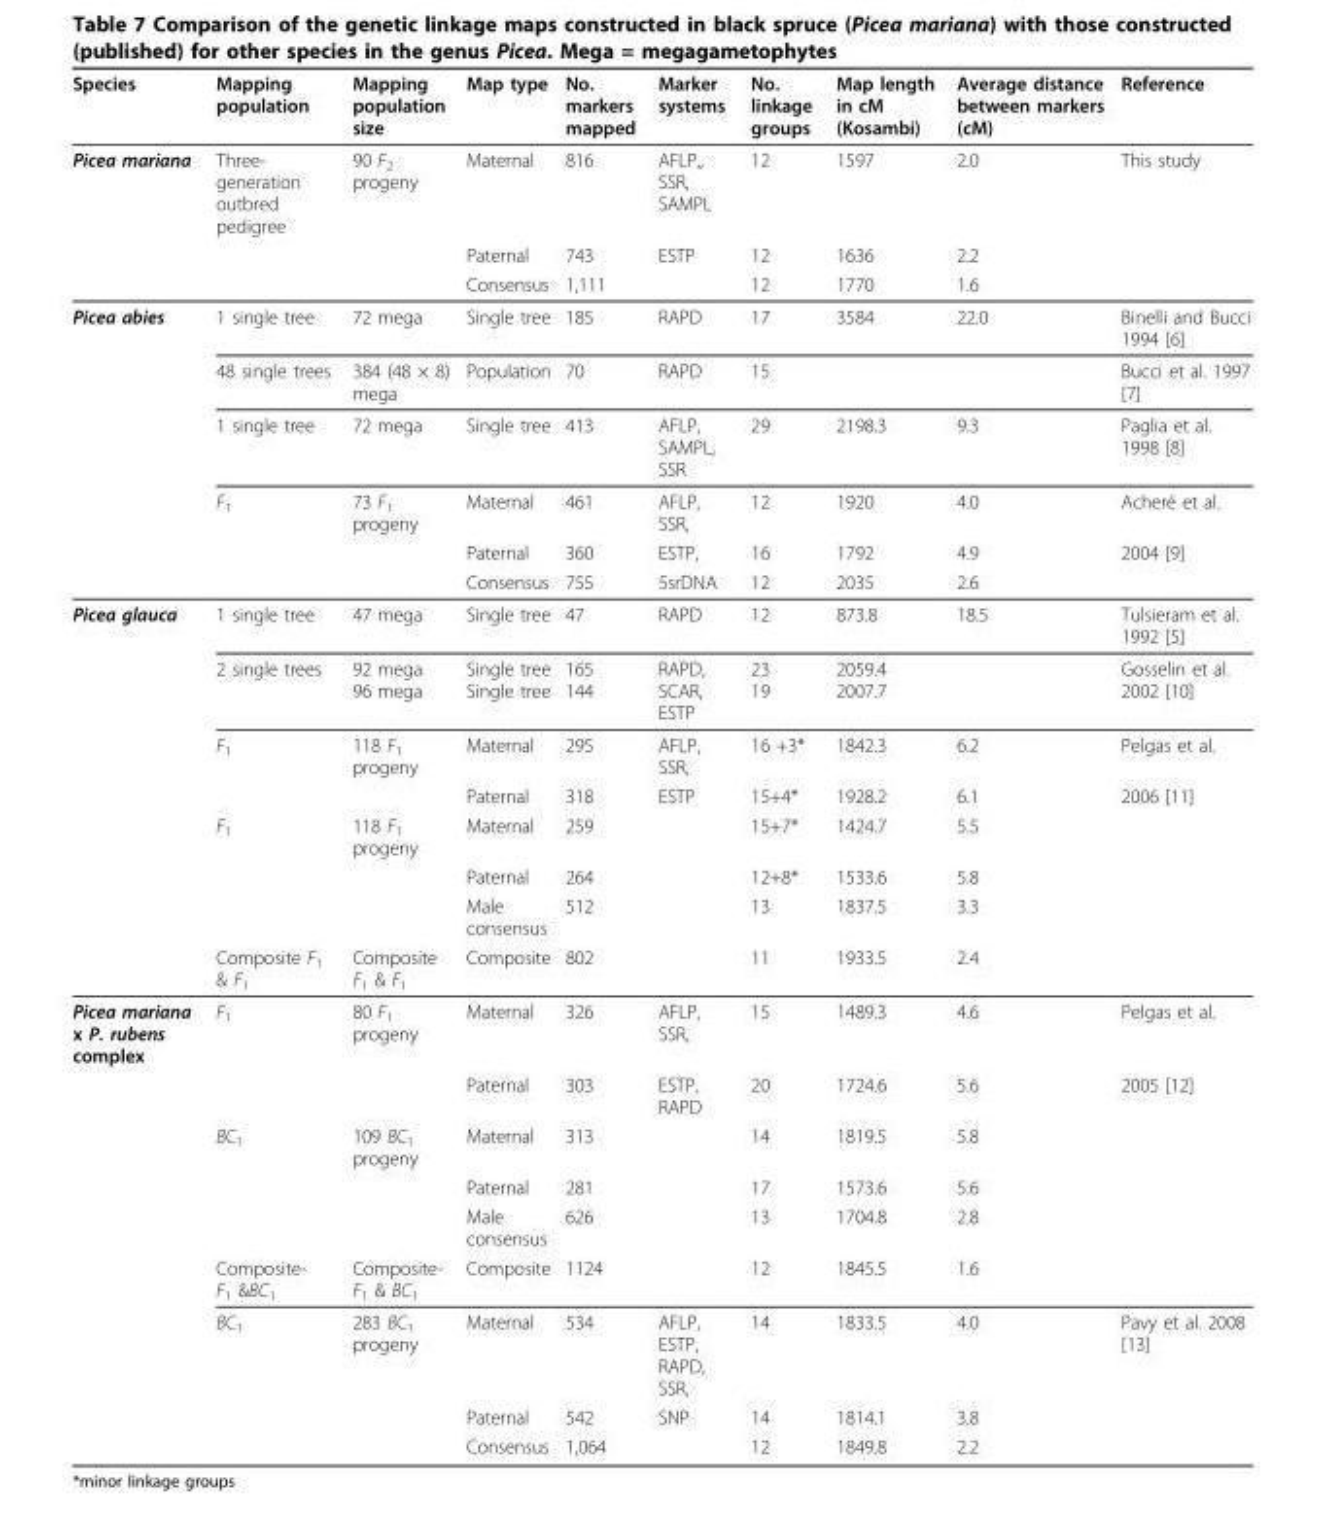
<table><thead><tr><td>Species</td><td>Mapping population</td><td>Mapping population size</td><td>Map type</td><td>No. markers mapped</td><td>Marker systems</td><td>No. linkage groups</td><td>Map length in cM (Kosambi)</td><td>Average distance between markers (cM)</td><td>Reference</td></tr></thead><tbody><tr><td rowspan="3">Picea mariana</td><td>Three- generation outbred pedigree</td><td>90 F<sub>2</sub> progeny</td><td>Maternal</td><td>816</td><td>AFLP,, SSR, SAMPL</td><td>12</td><td>1597</td><td>2.0</td><td>This study</td></tr><tr><td></td><td></td><td>Paternal</td><td>743</td><td>ESTP</td><td>12</td><td>1636</td><td>2.2</td><td></td></tr><tr><td></td><td></td><td>Consensus</td><td>1,111</td><td></td><td>12</td><td>1770</td><td>1.6</td><td></td></tr><tr><td rowspan="6">Picea abies</td><td>1 single tree</td><td>72 mega</td><td>Single tree</td><td>185</td><td>RAPD</td><td>17</td><td>3584</td><td>22.0</td><td>Binelli and Bucci 1994 [6]</td></tr><tr><td>48 single trees</td><td>384 (48 × 8) mega</td><td>Population</td><td>70</td><td>RAPD</td><td>15</td><td></td><td></td><td>Bucci et al. 1997 [7]</td></tr><tr><td>1 single tree</td><td>72 mega</td><td>Single tree</td><td>413</td><td>AFLP, SAMPL, SSR</td><td>29</td><td>2198.3</td><td>9.3</td><td>Paglia et al. 1998 [8]</td></tr><tr><td>F<sub>1</sub></td><td>73 F<sub>1</sub> progeny</td><td>Maternal</td><td>461</td><td>AFLP, SSR,</td><td>12</td><td>1920</td><td>4.0</td><td>Acheré et al.</td></tr><tr><td></td><td></td><td>Paternal</td><td>360</td><td>ESTP,</td><td>16</td><td>1792</td><td>4.9</td><td>2004 [9]</td></tr><tr><td></td><td></td><td>Consensus</td><td>755</td><td>5srDNA</td><td>12</td><td>2035</td><td>2.6</td><td></td></tr><tr><td rowspan="8">Picea glauca</td><td>1 single tree</td><td>47 mega</td><td>Single tree</td><td>47</td><td>RAPD</td><td>12</td><td>873.8</td><td>18.5</td><td>Tulsieram et al. 1992 [5]</td></tr><tr><td>2 single trees</td><td>92 mega 96 mega</td><td>Single tree Single tree</td><td>165 144</td><td>RAPD, SCAR, ESTP</td><td>23 19</td><td>2059.4 2007.7</td><td></td><td>Gosselin et al. 2002 [10]</td></tr><tr><td>F<sub>1</sub></td><td>118 F<sub>1</sub> progeny</td><td>Maternal</td><td>295</td><td>AFLP, SSR,</td><td>16 +3*</td><td>1842.3</td><td>6.2</td><td>Pelgas et al.</td></tr><tr><td></td><td></td><td>Paternal</td><td>318</td><td>ESTP</td><td>15+4*</td><td>1928.2</td><td>6.1</td><td>2006 [11]</td></tr><tr><td>F<sub>1</sub></td><td>118 F<sub>1</sub> progeny</td><td>Maternal</td><td>259</td><td></td><td>15+7*</td><td>1424.7</td><td>5.5</td><td></td></tr><tr><td></td><td></td><td>Paternal</td><td>264</td><td></td><td>12+8*</td><td>1533.6</td><td>5.8</td><td></td></tr><tr><td></td><td></td><td>Male consensus</td><td>512</td><td></td><td>13</td><td>1837.5</td><td>3.3</td><td></td></tr><tr><td>Composite F<sub>1</sub> &amp; F<sub>1</sub></td><td>Composite F<sub>1</sub> &amp; F<sub>1</sub></td><td>Composite</td><td>802</td><td></td><td>11</td><td>1933.5</td><td>2.4</td><td></td></tr><tr><td rowspan="9">Picea mariana x P. rubens complex</td><td>F<sub>1</sub></td><td>80 F<sub>1</sub> progeny</td><td>Maternal</td><td>326</td><td>AFLP, SSR,</td><td>15</td><td>1489.3</td><td>4.6</td><td>Pelgas et al.</td></tr><tr><td></td><td></td><td>Paternal</td><td>303</td><td>ESTP, RAPD</td><td>20</td><td>1724.6</td><td>5.6</td><td>2005 [12]</td></tr><tr><td>BC<sub>1</sub></td><td>109 BC<sub>1</sub> progeny</td><td>Maternal</td><td>313</td><td></td><td>14</td><td>1819.5</td><td>5.8</td><td></td></tr><tr><td></td><td></td><td>Paternal</td><td>281</td><td></td><td>17</td><td>1573.6</td><td>5.6</td><td></td></tr><tr><td></td><td></td><td>Male consensus</td><td>626</td><td></td><td>13</td><td>1704.8</td><td>2.8</td><td></td></tr><tr><td>Composite- F<sub>1</sub> &amp;BC<sub>1</sub></td><td>Composite- F<sub>1</sub> &amp; BC<sub>1</sub></td><td>Composite</td><td>1124</td><td></td><td>12</td><td>1845.5</td><td>1.6</td><td></td></tr><tr><td>BC<sub>1</sub></td><td>283 BC<sub>1</sub> progeny</td><td>Maternal</td><td>534</td><td>AFLP, ESTP, RAPD, SSR,</td><td>14</td><td>1833.5</td><td>4.0</td><td>Pavy et al. 2008 [13]</td></tr><tr><td></td><td></td><td>Paternal</td><td>542</td><td>SNP</td><td>14</td><td>1814.1</td><td>3.8</td><td></td></tr><tr><td></td><td></td><td>Consensus</td><td>1,064</td><td></td><td>12</td><td>1849.8</td><td>2.2</td><td></td></tr></tbody></table>